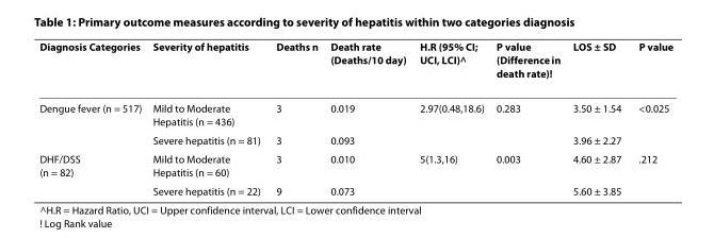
<table><thead><tr><td>Diagnosis Categories</td><td>Severity of hepatitis</td><td>Deaths n</td><td>Death rate (Deaths/10 day)</td><td>H.R (95% CI; UCI, LCI)^</td><td>P value (Difference in death rate)!</td><td>LOS ± SD</td><td>P value</td></tr></thead><tbody><tr><td rowspan="2">Dengue fever (n = 517)</td><td>Mild to Moderate Hepatitis (n = 436)</td><td>3</td><td>0.019</td><td>2.97(0.48,18.6)</td><td>0.283</td><td>3.50 ± 1.54</td><td>&lt;0.025</td></tr><tr><td>Severe hepatitis (n = 81)</td><td>3</td><td>0.093</td><td></td><td></td><td>3.96 ± 2.27</td><td></td></tr><tr><td rowspan="2">DHF/DSS (n = 82)</td><td>Mild to Moderate Hepatitis (n = 60)</td><td>3</td><td>0.010</td><td>5(1.3,16)</td><td>0.003</td><td>4.60 ± 2.87</td><td>.212</td></tr><tr><td>Severe hepatitis (n = 22)</td><td>9</td><td>0.073</td><td></td><td></td><td>5.60 ± 3.85</td><td></td></tr></tbody></table>